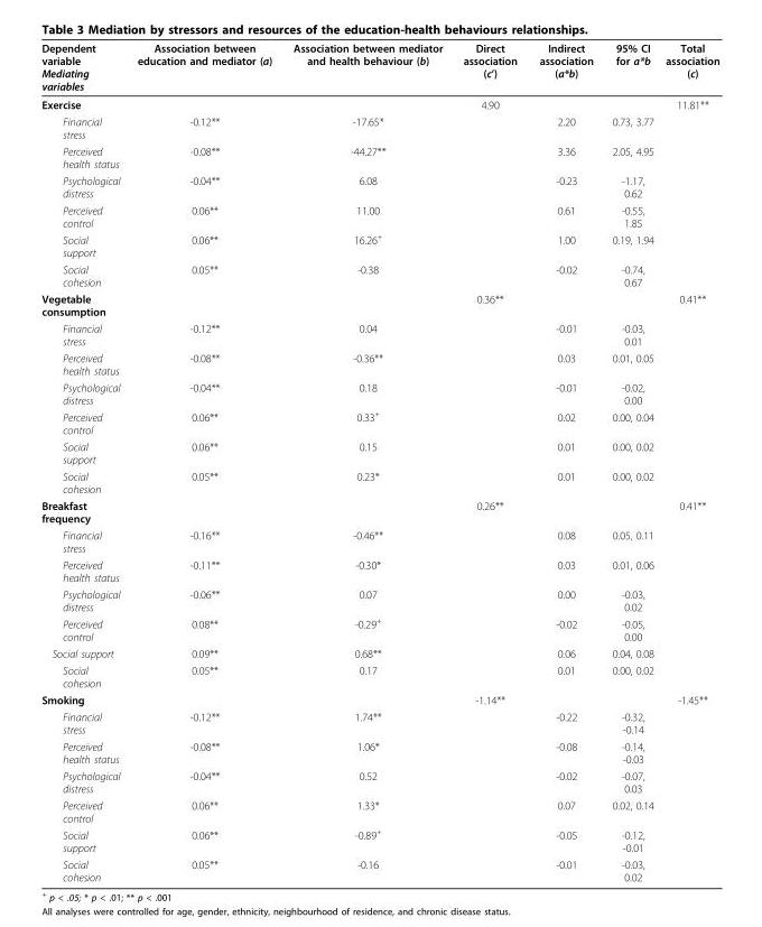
<table><thead><tr><td>Dependent variable Mediating variables</td><td>Association between education and mediator (a)</td><td>Association between mediator and health behaviour (b)</td><td>Direct association (c’)</td><td>Indirect association (a*b)</td><td>95% CI for a*b</td><td>Total association (c)</td></tr></thead><tbody><tr><td>Exercise</td><td></td><td></td><td>4.90</td><td></td><td></td><td>11.81**</td></tr><tr><td>Financial stress</td><td>-0.12**</td><td>-17.65*</td><td></td><td>2.20</td><td>0.73, 3.77</td><td></td></tr><tr><td>Perceived health status</td><td>-0.08**</td><td>-44.27**</td><td></td><td>3.36</td><td>2.05, 4.95</td><td></td></tr><tr><td>Psychological distress</td><td>-0.04**</td><td>6.08</td><td></td><td>-0.23</td><td>-1.17, 0.62</td><td></td></tr><tr><td>Perceived control</td><td>0.06**</td><td>11.00</td><td></td><td>0.61</td><td>-0.55, 1.85</td><td></td></tr><tr><td>Social support</td><td>0.06**</td><td>16.26<sup>+</sup></td><td></td><td>1.00</td><td>0.19, 1.94</td><td></td></tr><tr><td>Social cohesion</td><td>0.05**</td><td>-0.38</td><td></td><td>-0.02</td><td>-0.74, 0.67</td><td></td></tr><tr><td>Vegetable consumption</td><td></td><td></td><td>0.36**</td><td></td><td></td><td>0.41**</td></tr><tr><td>Financial stress</td><td>-0.12**</td><td>0.04</td><td></td><td>-0.01</td><td>-0.03, 0.01</td><td></td></tr><tr><td>Perceived health status</td><td>-0.08**</td><td>-0.36**</td><td></td><td>0.03</td><td>0.01, 0.05</td><td></td></tr><tr><td>Psychological distress</td><td>-0.04**</td><td>0.18</td><td></td><td>-0.01</td><td>-0.02, 0.00</td><td></td></tr><tr><td>Perceived control</td><td>0.06**</td><td>0.33<sup>+</sup></td><td></td><td>0.02</td><td>0.00, 0.04</td><td></td></tr><tr><td>Social support</td><td>0.06**</td><td>0.15</td><td></td><td>0.01</td><td>0.00, 0.02</td><td></td></tr><tr><td>Social cohesion</td><td>0.05**</td><td>0.23*</td><td></td><td>0.01</td><td>0.00, 0.02</td><td></td></tr><tr><td>Breakfast frequency</td><td></td><td></td><td>0.26**</td><td></td><td></td><td>0.41**</td></tr><tr><td>Financial stress</td><td>-0.16**</td><td>-0.46**</td><td></td><td>0.08</td><td>0.05, 0.11</td><td></td></tr><tr><td>Perceived health status</td><td>-0.11**</td><td>-0.30*</td><td></td><td>0.03</td><td>0.01, 0.06</td><td></td></tr><tr><td>Psychological distress</td><td>-0.06**</td><td>0.07</td><td></td><td>0.00</td><td>-0.03, 0.02</td><td></td></tr><tr><td>Perceived control</td><td>0.08**</td><td>-0.29<sup>+</sup></td><td></td><td>-0.02</td><td>-0.05, 0.00</td><td></td></tr><tr><td>Social support</td><td>0.09**</td><td>0.68**</td><td></td><td>0.06</td><td>0.04, 0.08</td><td></td></tr><tr><td>Social cohesion</td><td>0.05**</td><td>0.17</td><td></td><td>0.01</td><td>0.00, 0.02</td><td></td></tr><tr><td>Smoking</td><td></td><td></td><td>-1.14**</td><td></td><td></td><td>-1.45**</td></tr><tr><td>Financial stress</td><td>-0.12**</td><td>1.74**</td><td></td><td>-0.22</td><td>-0.32, -0.14</td><td></td></tr><tr><td>Perceived health status</td><td>-0.08**</td><td>1.06*</td><td></td><td>-0.08</td><td>-0.14, -0.03</td><td></td></tr><tr><td>Psychological distress</td><td>-0.04**</td><td>0.52</td><td></td><td>-0.02</td><td>-0.07, 0.03</td><td></td></tr><tr><td>Perceived control</td><td>0.06**</td><td>1.33*</td><td></td><td>0.07</td><td>0.02, 0.14</td><td></td></tr><tr><td>Social support</td><td>0.06**</td><td>-0.89<sup>+</sup></td><td></td><td>-0.05</td><td>-0.12, -0.01</td><td></td></tr><tr><td>Social cohesion</td><td>0.05**</td><td>-0.16</td><td></td><td>-0.01</td><td>-0.03, 0.02</td><td></td></tr></tbody></table>